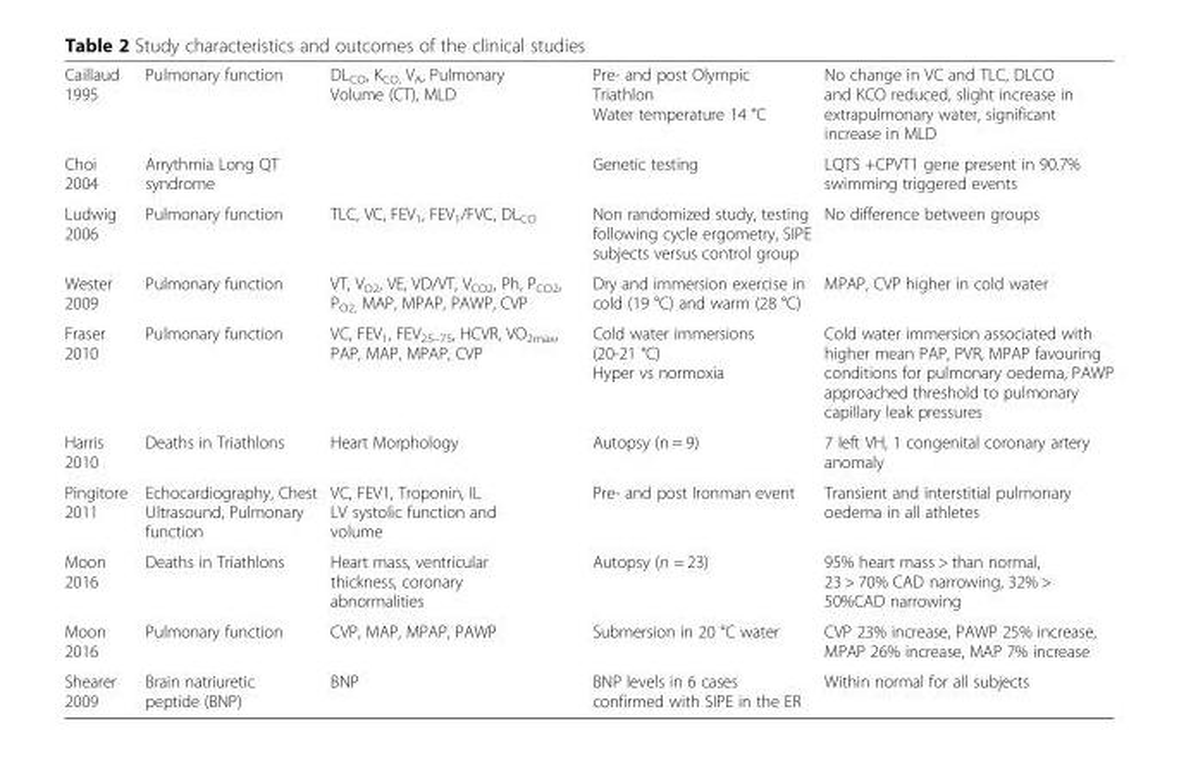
<table><tbody><tr><td>Caillaud 1995</td><td>Pulmonary function</td><td>DL<sub>CO</sub>, K<sub>CO,</sub> V<sub>A</sub>, Pulmonary Volume (CT), MLD</td><td>Pre- and post Olympic Triathlon Water temperature 14 °C</td><td>No change in VC and TLC, DLCO and KCO reduced, slight increase in extrapulmonary water, significant increase in MLD</td></tr><tr><td>Choi 2004</td><td>Arrythmia Long QT syndrome</td><td></td><td>Genetic testing</td><td>LQTS +CPVT1 gene present in 90.7% swimming triggered events</td></tr><tr><td>Ludwig 2006</td><td>Pulmonary function</td><td>TLC, VC, FEV<sub>1</sub>, FEV<sub>1</sub>/FVC, DL<sub>CO</sub></td><td>Non randomized study, testing following cycle ergometry, SIPE subjects versus control group</td><td>No difference between groups</td></tr><tr><td>Wester 2009</td><td>Pulmonary function</td><td>VT, V<sub>O2</sub>, VE, VD/VT, V<sub>CO2</sub>, Ph, P<sub>CO2</sub>, P<sub>O2,</sub> MAP, MPAP, PAWP, CVP</td><td>Dry and immersion exercise in cold (19 °C) and warm (28 °C)</td><td>MPAP, CVP higher in cold water</td></tr><tr><td>Fraser 2010</td><td>Pulmonary function</td><td>VC, FEV<sub>1</sub>, FEV<sub>25–75</sub>, HCVR, VO<sub>2max</sub>, PAP, MAP, MPAP, CVP</td><td>Cold water immersions (20-21 °C) Hyper vs normoxia</td><td>Cold water immersion associated with higher mean PAP, PVR, MPAP favouring conditions for pulmonary oedema, PAWP approached threshold to pulmonary capillary leak pressures</td></tr><tr><td>Harris 2010</td><td>Deaths in Triathlons</td><td>Heart Morphology</td><td>Autopsy (n = 9)</td><td>7 left VH, 1 congenital coronary artery anomaly</td></tr><tr><td>Pingitore 2011</td><td>Echocardiography, Chest Ultrasound, Pulmonary function</td><td>VC, FEV1, Troponin, IL LV systolic function and volume</td><td>Pre- and post Ironman event</td><td>Transient and interstitial pulmonary oedema in all athletes</td></tr><tr><td>Moon 2016</td><td>Deaths in Triathlons</td><td>Heart mass, ventricular thickness, coronary abnormalities</td><td>Autopsy (n = 23)</td><td>95% heart mass &gt; than normal, 23 &gt; 70% CAD narrowing, 32% &gt; 50%CAD narrowing</td></tr><tr><td>Moon 2016</td><td>Pulmonary function</td><td>CVP, MAP, MPAP, PAWP</td><td>Submersion in 20 °C water</td><td>CVP 23% increase, PAWP 25% increase, MPAP 26% increase, MAP 7% increase</td></tr><tr><td>Shearer 2009</td><td>Brain natriuretic peptide (BNP)</td><td>BNP</td><td>BNP levels in 6 cases confirmed with SIPE in the ER</td><td>Within normal for all subjects</td></tr></tbody></table>